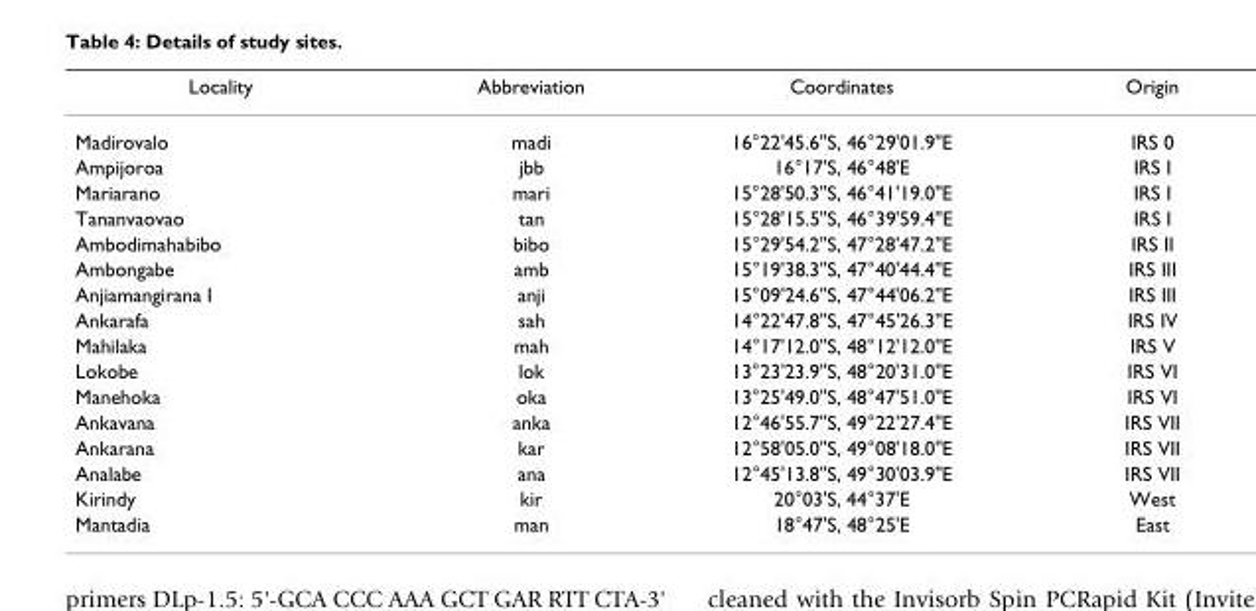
<table><thead><tr><td>Locality</td><td>Abbreviation</td><td>Coordinates</td><td>Origin</td></tr></thead><tbody><tr><td>Madirovalo</td><td>madi</td><td>16°22&#x27;45.6&quot;S, 46°29&#x27;01.9&quot;E</td><td>IRS 0</td></tr><tr><td>Ampijoroa</td><td>jbb</td><td>16°17&#x27;S, 46°48&#x27;E</td><td>IRS I</td></tr><tr><td>Mariarano</td><td>mari</td><td>15°28&#x27;50.3&quot;S, 46°41&#x27;19.0&quot;E</td><td>IRS I</td></tr><tr><td>Tananvaovao</td><td>tan</td><td>15°28&#x27;15.5&quot;S, 46°39&#x27;59.4&quot;E</td><td>IRS I</td></tr><tr><td>Ambodimahabibo</td><td>bibo</td><td>15°29&#x27;54.2&quot;S, 47°28&#x27;47.2&quot;E</td><td>IRS II</td></tr><tr><td>Ambongabe</td><td>amb</td><td>15°19&#x27;38.3&quot;S, 47°40&#x27;44.4&quot;E</td><td>IRS III</td></tr><tr><td>Anjiamangirana I</td><td>anji</td><td>15°09&#x27;24.6&quot;S, 47°44&#x27;06.2&quot;E</td><td>IRS III</td></tr><tr><td>Ankarafa</td><td>sah</td><td>14°22&#x27;47.8&quot;S, 47°45&#x27;26.3&quot;E</td><td>IRS IV</td></tr><tr><td>Mahilaka</td><td>mah</td><td>14°17&#x27;12.0&quot;S, 48°12&#x27;12.0&quot;E</td><td>IRS V</td></tr><tr><td>Lokobe</td><td>lok</td><td>13°23&#x27;23.9&quot;S, 48°20&#x27;31.0&quot;E</td><td>IRS VI</td></tr><tr><td>Manehoka</td><td>oka</td><td>13°25&#x27;49.0&quot;S, 48°47&#x27;51.0&quot;E</td><td>IRS VI</td></tr><tr><td>Ankavana</td><td>anka</td><td>12°46&#x27;55.7&quot;S, 49°22&#x27;27.4&quot;E</td><td>IRS VII</td></tr><tr><td>Ankarana</td><td>kar</td><td>12°58&#x27;05.0&quot;S, 49°08&#x27;18.0&quot;E</td><td>IRS VII</td></tr><tr><td>Analabe</td><td>ana</td><td>12°45&#x27;13.8&quot;S, 49°30&#x27;03.9&quot;E</td><td>IRS VII</td></tr><tr><td>Kirindy</td><td>kir</td><td>20°03&#x27;S, 44°37&#x27;E</td><td>West</td></tr><tr><td>Mantadia</td><td>man</td><td>18°47&#x27;S, 48°25&#x27;E</td><td>East</td></tr></tbody></table>